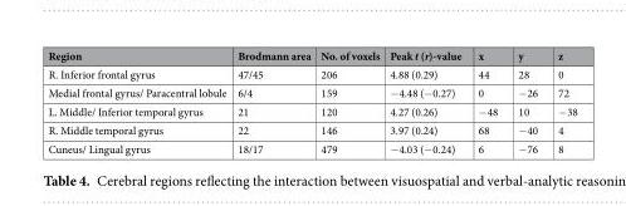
<table><thead><tr><td>Region</td><td>Brodmann area</td><td>No. of voxels</td><td>Peak t (r)-value</td><td>x</td><td>y</td><td>z</td></tr></thead><tbody><tr><td>R. Inferior frontal gyrus</td><td>47/45</td><td>206</td><td>4.88 (0.29)</td><td>44</td><td>28</td><td>0</td></tr><tr><td>Medial frontal gyrus/ Paracentral lobule</td><td>6/4</td><td>159</td><td>−4.48 (−0.27)</td><td>0</td><td>−26</td><td>72</td></tr><tr><td>L. Middle/ Inferior temporal gyrus</td><td>21</td><td>120</td><td>4.27 (0.26)</td><td>−48</td><td>10</td><td>−38</td></tr><tr><td>R. Middle temporal gyrus</td><td>22</td><td>146</td><td>3.97 (0.24)</td><td>68</td><td>−40</td><td>4</td></tr><tr><td>Cuneus/ Lingual gyrus</td><td>18/17</td><td>479</td><td>−4.03 (−0.24)</td><td>6</td><td>−76</td><td>8</td></tr></tbody></table>